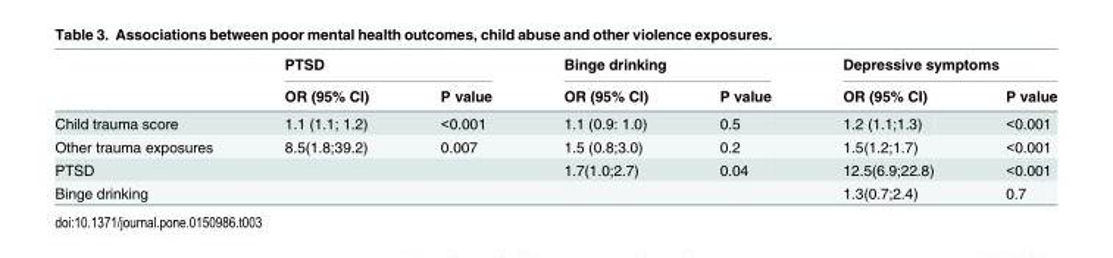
<table><thead><tr><td rowspan="2"></td><td colspan="2">PTSD</td><td colspan="2">Binge drinking</td><td colspan="2">Depressive symptoms</td></tr><tr><td>OR (95% CI)</td><td>P value</td><td>OR (95% CI)</td><td>P value</td><td>OR (95% CI)</td><td>P value</td></tr></thead><tbody><tr><td>Child trauma score</td><td>1.1 (1.1; 1.2)</td><td>&lt;0.001</td><td>1.1 (0.9: 1.0)</td><td>0.5</td><td>1.2 (1.1;1.3)</td><td>&lt;0.001</td></tr><tr><td>Other trauma exposures</td><td>8.5(1.8;39.2)</td><td>0.007</td><td>1.5 (0.8;3.0)</td><td>0.2</td><td>1.5(1.2;1.7)</td><td>&lt;0.001</td></tr><tr><td>PTSD</td><td></td><td></td><td>1.7(1.0;2.7)</td><td>0.04</td><td>12.5(6.9;22.8)</td><td>&lt;0.001</td></tr><tr><td>Binge drinking</td><td></td><td></td><td></td><td></td><td>1.3(0.7;2.4)</td><td>0.7</td></tr></tbody></table>